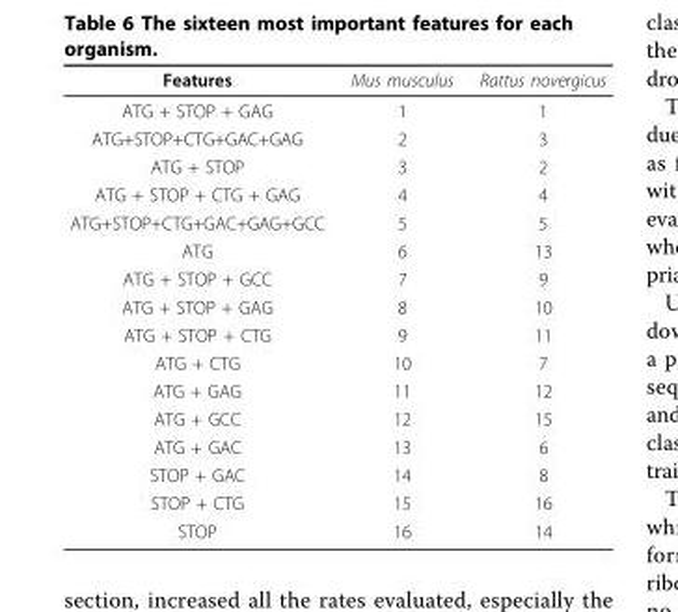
<table><thead><tr><td>Features</td><td>Mus musculus</td><td>Rattus novergicus</td></tr></thead><tbody><tr><td>ATG + STOP + GAG</td><td>1</td><td>1</td></tr><tr><td>ATG+STOP+CTG+GAC+GAG</td><td>2</td><td>3</td></tr><tr><td>ATG + STOP</td><td>3</td><td>2</td></tr><tr><td>ATG + STOP + CTG + GAG</td><td>4</td><td>4</td></tr><tr><td>ATG+STOP+CTG+GAC+GAG+GCC</td><td>5</td><td>5</td></tr><tr><td>ATG</td><td>6</td><td>13</td></tr><tr><td>ATG + STOP + GCC</td><td>7</td><td>9</td></tr><tr><td>ATG + STOP + GAG</td><td>8</td><td>10</td></tr><tr><td>ATG + STOP + CTG</td><td>9</td><td>11</td></tr><tr><td>ATG + CTG</td><td>10</td><td>7</td></tr><tr><td>ATG + GAG</td><td>11</td><td>12</td></tr><tr><td>ATG + GCC</td><td>12</td><td>15</td></tr><tr><td>ATG + GAC</td><td>13</td><td>6</td></tr><tr><td>STOP + GAC</td><td>14</td><td>8</td></tr><tr><td>STOP + CTG</td><td>15</td><td>16</td></tr><tr><td>STOP</td><td>16</td><td>14</td></tr></tbody></table>